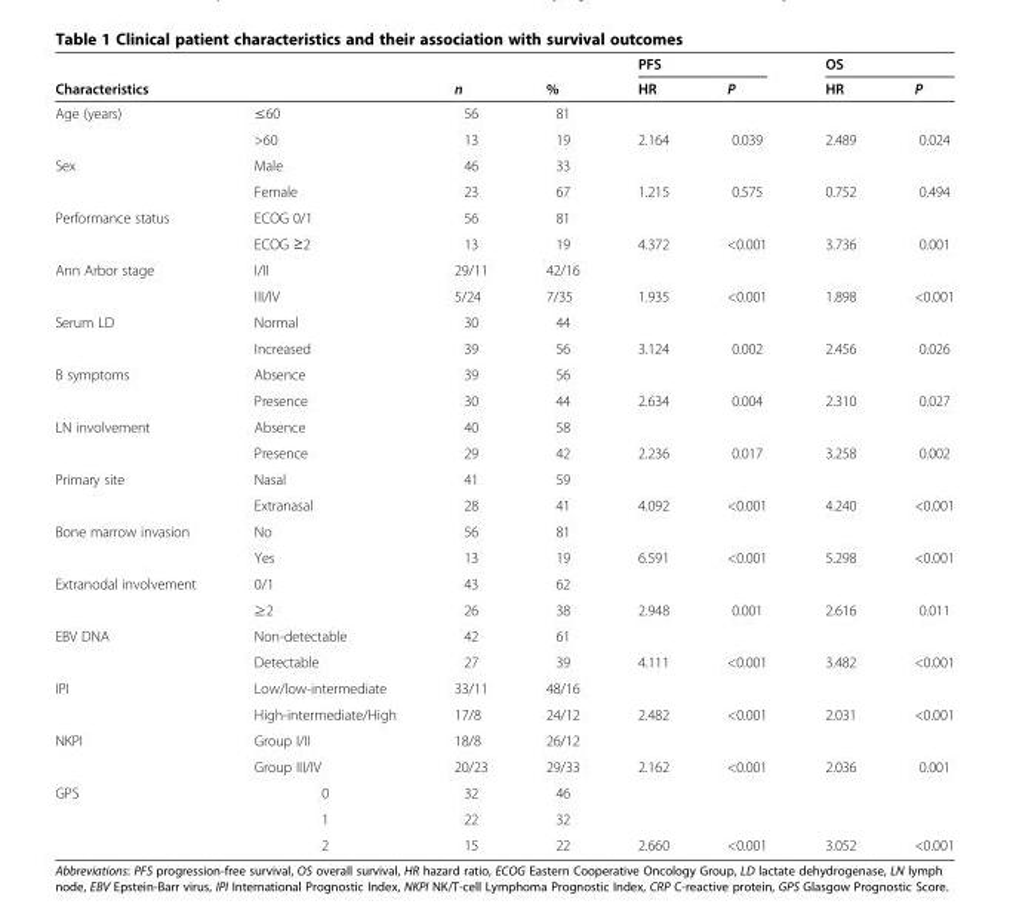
<table><thead><tr><td></td><td></td><td></td><td></td><td>PFS</td><td></td><td>OS</td><td></td></tr></thead><tbody><tr><td>Characteristics</td><td></td><td>n</td><td>%</td><td>HR</td><td>P</td><td>HR</td><td>P</td></tr><tr><td rowspan="2">Age (years)</td><td>≤60</td><td>56</td><td>81</td><td></td><td></td><td></td><td></td></tr><tr><td>&gt;60</td><td>13</td><td>19</td><td>2.164</td><td>0.039</td><td>2.489</td><td>0.024</td></tr><tr><td rowspan="2">Sex</td><td>Male</td><td>46</td><td>33</td><td></td><td></td><td></td><td></td></tr><tr><td>Female</td><td>23</td><td>67</td><td>1.215</td><td>0.575</td><td>0.752</td><td>0.494</td></tr><tr><td rowspan="2">Performance status</td><td>ECOG 0/1</td><td>56</td><td>81</td><td></td><td></td><td></td><td></td></tr><tr><td>ECOG ≥2</td><td>13</td><td>19</td><td>4.372</td><td>&lt;0.001</td><td>3.736</td><td>0.001</td></tr><tr><td rowspan="2">Ann Arbor stage</td><td>I/II</td><td>29/11</td><td>42/16</td><td></td><td></td><td></td><td></td></tr><tr><td>III/IV</td><td>5/24</td><td>7/35</td><td>1.935</td><td>&lt;0.001</td><td>1.898</td><td>&lt;0.001</td></tr><tr><td rowspan="2">Serum LD</td><td>Normal</td><td>30</td><td>44</td><td></td><td></td><td></td><td></td></tr><tr><td>Increased</td><td>39</td><td>56</td><td>3.124</td><td>0.002</td><td>2.456</td><td>0.026</td></tr><tr><td rowspan="2">B symptoms</td><td>Absence</td><td>39</td><td>56</td><td></td><td></td><td></td><td></td></tr><tr><td>Presence</td><td>30</td><td>44</td><td>2.634</td><td>0.004</td><td>2.310</td><td>0.027</td></tr><tr><td rowspan="2">LN involvement</td><td>Absence</td><td>40</td><td>58</td><td></td><td></td><td></td><td></td></tr><tr><td>Presence</td><td>29</td><td>42</td><td>2.236</td><td>0.017</td><td>3.258</td><td>0.002</td></tr><tr><td rowspan="2">Primary site</td><td>Nasal</td><td>41</td><td>59</td><td></td><td></td><td></td><td></td></tr><tr><td>Extranasal</td><td>28</td><td>41</td><td>4.092</td><td>&lt;0.001</td><td>4.240</td><td>&lt;0.001</td></tr><tr><td rowspan="2">Bone marrow invasion</td><td>No</td><td>56</td><td>81</td><td></td><td></td><td></td><td></td></tr><tr><td>Yes</td><td>13</td><td>19</td><td>6.591</td><td>&lt;0.001</td><td>5.298</td><td>&lt;0.001</td></tr><tr><td rowspan="2">Extranodal involvement</td><td>0/1</td><td>43</td><td>62</td><td></td><td></td><td></td><td></td></tr><tr><td>≥2</td><td>26</td><td>38</td><td>2.948</td><td>0.001</td><td>2.616</td><td>0.011</td></tr><tr><td rowspan="2">EBV DNA</td><td>Non-detectable</td><td>42</td><td>61</td><td></td><td></td><td></td><td></td></tr><tr><td>Detectable</td><td>27</td><td>39</td><td>4.111</td><td>&lt;0.001</td><td>3.482</td><td>&lt;0.001</td></tr><tr><td rowspan="2">IPI</td><td>Low/low-intermediate</td><td>33/11</td><td>48/16</td><td></td><td></td><td></td><td></td></tr><tr><td>High-intermediate/High</td><td>17/8</td><td>24/12</td><td>2.482</td><td>&lt;0.001</td><td>2.031</td><td>&lt;0.001</td></tr><tr><td rowspan="2">NKPI</td><td>Group I/II</td><td>18/8</td><td>26/12</td><td></td><td></td><td></td><td></td></tr><tr><td>Group III/IV</td><td>20/23</td><td>29/33</td><td>2.162</td><td>&lt;0.001</td><td>2.036</td><td>0.001</td></tr><tr><td rowspan="3">GPS</td><td>0</td><td>32</td><td>46</td><td></td><td></td><td></td><td></td></tr><tr><td>1</td><td>22</td><td>32</td><td></td><td></td><td></td><td></td></tr><tr><td>2</td><td>15</td><td>22</td><td>2.660</td><td>&lt;0.001</td><td>3.052</td><td>&lt;0.001</td></tr></tbody></table>